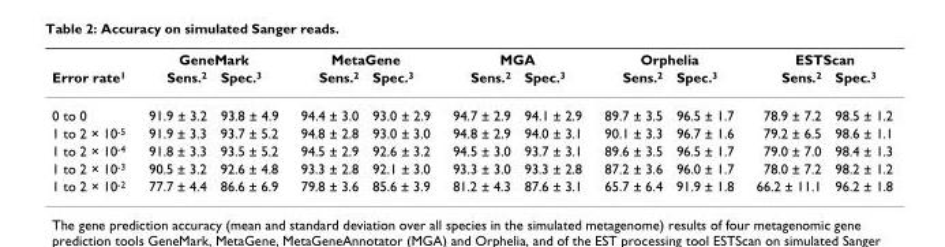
<table><thead><tr><td rowspan="2">Error rate<sup>1</sup></td><td colspan="2">GeneMark</td><td colspan="2">MetaGene</td><td colspan="2">MGA</td><td colspan="2">Orphelia</td><td colspan="2">ESTScan</td></tr><tr><td>Sens.<sup>2</sup></td><td>Spec.<sup>3</sup></td><td>Sens.<sup>2</sup></td><td>Spec.<sup>3</sup></td><td>Sens.<sup>2</sup></td><td>Spec.<sup>3</sup></td><td>Sens.<sup>2</sup></td><td>Spec.<sup>3</sup></td><td>Sens.<sup>2</sup></td><td>Spec.<sup>3</sup></td></tr></thead><tbody><tr><td>0 to 0</td><td>91.9 ± 3.2</td><td>93.8 ± 4.9</td><td>94.4 ± 3.0</td><td>93.0 ± 2.9</td><td>94.7 ± 2.9</td><td>94.1 ± 2.9</td><td>89.7 ± 3.5</td><td>96.5 ± 1.7</td><td>78.9 ± 7.2</td><td>98.5 ± 1.2</td></tr><tr><td>1 to 2 × 10<sup>-5</sup></td><td>91.9 ± 3.3</td><td>93.7 ± 5.2</td><td>94.8 ± 2.8</td><td>93.0 ± 3.0</td><td>94.8 ± 2.9</td><td>94.0 ± 3.1</td><td>90.1 ± 3.3</td><td>96.7 ± 1.6</td><td>79.2 ± 6.5</td><td>98.6 ± 1.1</td></tr><tr><td>1 to 2 × 10<sup>-4</sup></td><td>91.8 ± 3.3</td><td>93.5 ± 5.2</td><td>94.5 ± 2.9</td><td>92.6 ± 3.2</td><td>94.5 ± 3.0</td><td>93.7 ± 3.1</td><td>89.6 ± 3.5</td><td>96.5 ± 1.7</td><td>79.0 ± 7.0</td><td>98.4 ± 1.3</td></tr><tr><td>1 to 2 × 10<sup>-3</sup></td><td>90.5 ± 3.2</td><td>92.6 ± 4.8</td><td>93.3 ± 2.8</td><td>92.1 ± 3.0</td><td>93.3 ± 3.0</td><td>93.3 ± 2.8</td><td>87.2 ± 3.6</td><td>96.0 ± 1.7</td><td>78.0 ± 7.2</td><td>98.2 ± 1.2</td></tr><tr><td>1 to 2 × 10<sup>-2</sup></td><td>77.7 ± 4.4</td><td>86.6 ± 6.9</td><td>79.8 ± 3.6</td><td>85.6 ± 3.9</td><td>81.2 ± 4.3</td><td>87.6 ± 3.1</td><td>65.7 ± 6.4</td><td>91.9 ± 1.8</td><td>66.2 ± 11.1</td><td>96.2 ± 1.8</td></tr></tbody></table>